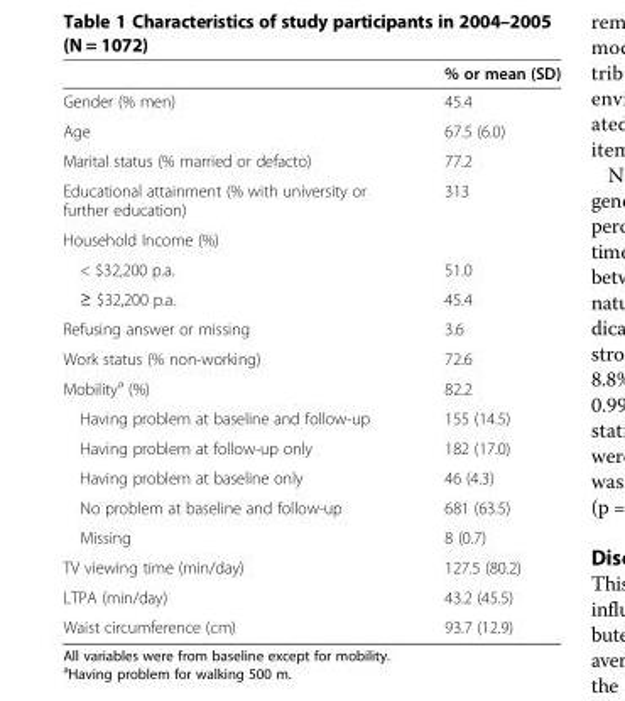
<table><thead><tr><td></td><td>% or mean (SD)</td></tr></thead><tbody><tr><td>Gender (% men)</td><td>45.4</td></tr><tr><td>Age</td><td>67.5 (6.0)</td></tr><tr><td>Marital status (% married or defacto)</td><td>77.2</td></tr><tr><td>Educational attainment (% with university or further education)</td><td>313</td></tr><tr><td colspan="2">Household Income (%)</td></tr><tr><td>&lt; $32,200 p.a.</td><td>51.0</td></tr><tr><td>≥ $32,200 p.a.</td><td>45.4</td></tr><tr><td>Refusing answer or missing</td><td>3.6</td></tr><tr><td>Work status (% non-working)</td><td>72.6</td></tr><tr><td>Mobility<sup>a</sup> (%)</td><td>82.2</td></tr><tr><td>Having problem at baseline and follow-up</td><td>155 (14.5)</td></tr><tr><td>Having problem at follow-up only</td><td>182 (17.0)</td></tr><tr><td>Having problem at baseline only</td><td>46 (4.3)</td></tr><tr><td>No problem at baseline and follow-up</td><td>681 (63.5)</td></tr><tr><td>Missing</td><td>8 (0.7)</td></tr><tr><td>TV viewing time (min/day)</td><td>127.5 (80.2)</td></tr><tr><td>LTPA (min/day)</td><td>43.2 (45.5)</td></tr><tr><td>Waist circumference (cm)</td><td>93.7 (12.9)</td></tr></tbody></table>